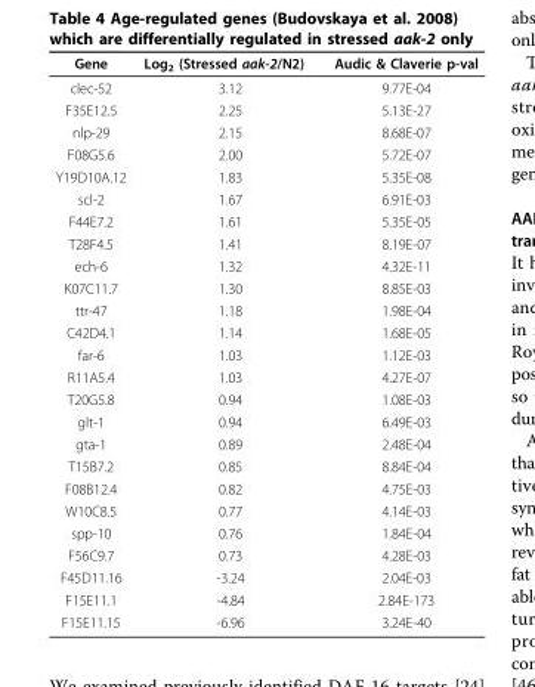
<table><thead><tr><td>Gene</td><td>Log<sub>2</sub> (Stressed aak-2/N2)</td><td>Audic &amp; Claverie p-val</td></tr></thead><tbody><tr><td>clec-52</td><td>3.12</td><td>9.77E-04</td></tr><tr><td>F35E12.5</td><td>2.25</td><td>5.13E-27</td></tr><tr><td>nlp-29</td><td>2.15</td><td>8.68E-07</td></tr><tr><td>F08G5.6</td><td>2.00</td><td>5.72E-07</td></tr><tr><td>Y19D10A.12</td><td>1.83</td><td>5.35E-08</td></tr><tr><td>scl-2</td><td>1.67</td><td>6.91E-03</td></tr><tr><td>F44E7.2</td><td>1.61</td><td>5.35E-05</td></tr><tr><td>T28F4.5</td><td>1.41</td><td>8.19E-07</td></tr><tr><td>ech-6</td><td>1.32</td><td>4.32E-11</td></tr><tr><td>K07C11.7</td><td>1.30</td><td>8.85E-03</td></tr><tr><td>ttr-47</td><td>1.18</td><td>1.98E-04</td></tr><tr><td>C42D4.1</td><td>1.14</td><td>1.68E-05</td></tr><tr><td>far-6</td><td>1.03</td><td>1.12E-03</td></tr><tr><td>R11A5.4</td><td>1.03</td><td>4.27E-07</td></tr><tr><td>T20G5.8</td><td>0.94</td><td>1.08E-03</td></tr><tr><td>glt-1</td><td>0.94</td><td>6.49E-03</td></tr><tr><td>gta-1</td><td>0.89</td><td>2.48E-04</td></tr><tr><td>T15B7.2</td><td>0.85</td><td>8.84E-04</td></tr><tr><td>F08B12.4</td><td>0.82</td><td>4.75E-03</td></tr><tr><td>W10C8.5</td><td>0.77</td><td>4.14E-03</td></tr><tr><td>spp-10</td><td>0.76</td><td>1.84E-04</td></tr><tr><td>F56C9.7</td><td>0.73</td><td>4.28E-03</td></tr><tr><td>F45D11.16</td><td>-3.24</td><td>2.04E-03</td></tr><tr><td>F15E11.1</td><td>-4.84</td><td>2.84E-173</td></tr><tr><td>F15E11.15</td><td>-6.96</td><td>3.24E-40</td></tr></tbody></table>